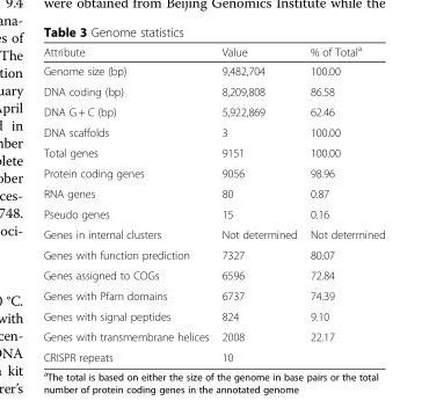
<table><thead><tr><td>Attribute</td><td>Value</td><td>% of Total<sup>a</sup></td></tr></thead><tbody><tr><td>Genome size (bp)</td><td>9,482,704</td><td>100.00</td></tr><tr><td>DNA coding (bp)</td><td>8,209,808</td><td>86.58</td></tr><tr><td>DNA G + C (bp)</td><td>5,922,869</td><td>62.46</td></tr><tr><td>DNA scaffolds</td><td>3</td><td>100.00</td></tr><tr><td>Total genes</td><td>9151</td><td>100.00</td></tr><tr><td>Protein coding genes</td><td>9056</td><td>98.96</td></tr><tr><td>RNA genes</td><td>80</td><td>0.87</td></tr><tr><td>Pseudo genes</td><td>15</td><td>0.16</td></tr><tr><td>Genes in internal clusters</td><td>Not determined</td><td>Not determined</td></tr><tr><td>Genes with function prediction</td><td>7327</td><td>80.07</td></tr><tr><td>Genes assigned to COGs</td><td>6596</td><td>72.84</td></tr><tr><td>Genes with Pfam domains</td><td>6737</td><td>74.39</td></tr><tr><td>Genes with signal peptides</td><td>824</td><td>9.10</td></tr><tr><td>Genes with transmembrane helices</td><td>2008</td><td>22.17</td></tr><tr><td>CRISPR repeats</td><td>10</td><td></td></tr></tbody></table>